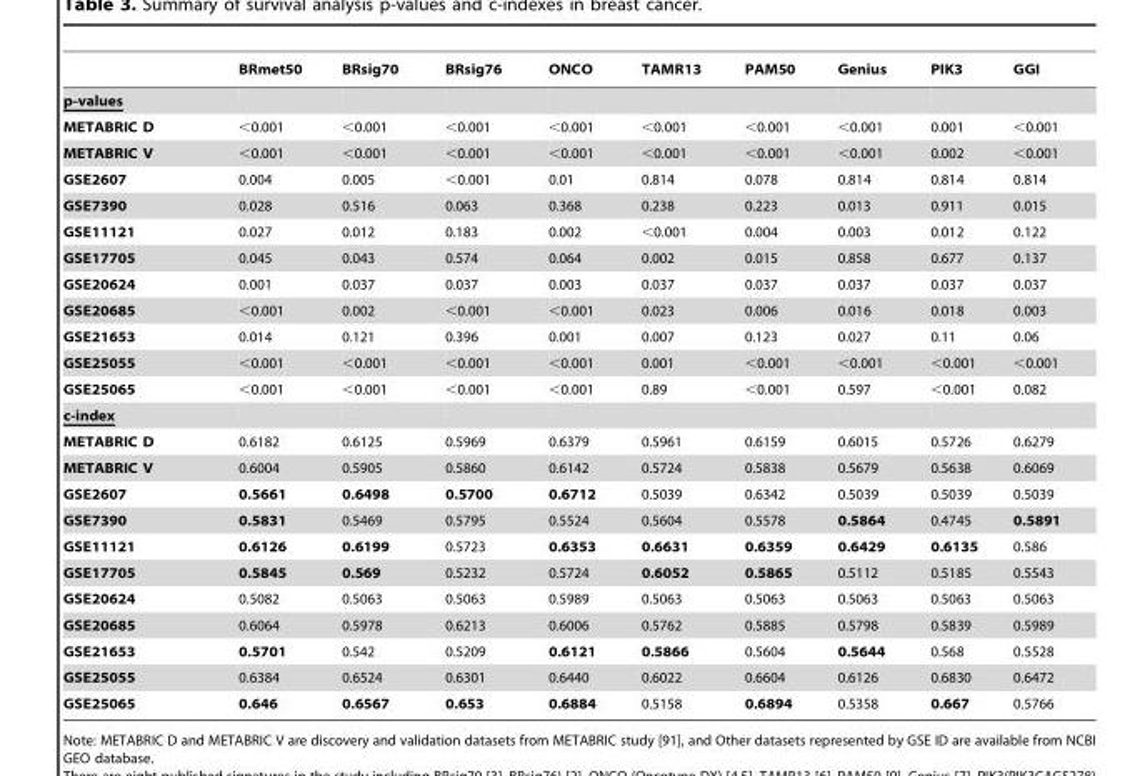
<table><thead><tr><td></td><td>BRmet50</td><td>BRsig70</td><td>BRsig76</td><td>ONCO</td><td>TAMR13</td><td>PAM50</td><td>Genius</td><td>PIK3</td><td>GGI</td></tr></thead><tbody><tr><td colspan="10">p-values</td></tr><tr><td>METABRIC D</td><td>&lt;0.001</td><td>&lt;0.001</td><td>&lt;0.001</td><td>&lt;0.001</td><td>&lt;0.001</td><td>&lt;0.001</td><td>&lt;0.001</td><td>0.001</td><td>&lt;0.001</td></tr><tr><td>METABRIC V</td><td>&lt;0.001</td><td>&lt;0.001</td><td>&lt;0.001</td><td>&lt;0.001</td><td>&lt;0.001</td><td>&lt;0.001</td><td>&lt;0.001</td><td>0.002</td><td>&lt;0.001</td></tr><tr><td>GSE2607</td><td>0.004</td><td>0.005</td><td>&lt;0.001</td><td>0.01</td><td>0.814</td><td>0.078</td><td>0.814</td><td>0.814</td><td>0.814</td></tr><tr><td>GSE7390</td><td>0.028</td><td>0.516</td><td>0.063</td><td>0.368</td><td>0.238</td><td>0.223</td><td>0.013</td><td>0.911</td><td>0.015</td></tr><tr><td>GSE11121</td><td>0.027</td><td>0.012</td><td>0.183</td><td>0.002</td><td>&lt;0.001</td><td>0.004</td><td>0.003</td><td>0.012</td><td>0.122</td></tr><tr><td>GSE17705</td><td>0.045</td><td>0.043</td><td>0.574</td><td>0.064</td><td>0.002</td><td>0.015</td><td>0.858</td><td>0.677</td><td>0.137</td></tr><tr><td>GSE20624</td><td>0.001</td><td>0.037</td><td>0.037</td><td>0.003</td><td>0.037</td><td>0.037</td><td>0.037</td><td>0.037</td><td>0.037</td></tr><tr><td>GSE20685</td><td>&lt;0.001</td><td>0.002</td><td>&lt;0.001</td><td>&lt;0.001</td><td>0.023</td><td>0.006</td><td>0.016</td><td>0.018</td><td>0.003</td></tr><tr><td>GSE21653</td><td>0.014</td><td>0.121</td><td>0.396</td><td>0.001</td><td>0.007</td><td>0.123</td><td>0.027</td><td>0.11</td><td>0.06</td></tr><tr><td>GSE25055</td><td>&lt;0.001</td><td>&lt;0.001</td><td>&lt;0.001</td><td>&lt;0.001</td><td>0.001</td><td>&lt;0.001</td><td>&lt;0.001</td><td>&lt;0.001</td><td>&lt;0.001</td></tr><tr><td>GSE25065</td><td>&lt;0.001</td><td>&lt;0.001</td><td>&lt;0.001</td><td>&lt;0.001</td><td>0.89</td><td>&lt;0.001</td><td>0.597</td><td>&lt;0.001</td><td>0.082</td></tr><tr><td colspan="10">c-index</td></tr><tr><td>METABRIC D</td><td>0.6182</td><td>0.6125</td><td>0.5969</td><td>0.6379</td><td>0.5961</td><td>0.6159</td><td>0.6015</td><td>0.5726</td><td>0.6279</td></tr><tr><td>METABRIC V</td><td>0.6004</td><td>0.5905</td><td>0.5860</td><td>0.6142</td><td>0.5724</td><td>0.5838</td><td>0.5679</td><td>0.5638</td><td>0.6069</td></tr><tr><td>GSE2607</td><td>0.5661</td><td>0.6498</td><td>0.5700</td><td>0.6712</td><td>0.5039</td><td>0.6342</td><td>0.5039</td><td>0.5039</td><td>0.5039</td></tr><tr><td>GSE7390</td><td>0.5831</td><td>0.5469</td><td>0.5795</td><td>0.5524</td><td>0.5604</td><td>0.5578</td><td>0.5864</td><td>0.4745</td><td>0.5891</td></tr><tr><td>GSE11121</td><td>0.6126</td><td>0.6199</td><td>0.5723</td><td>0.6353</td><td>0.6631</td><td>0.6359</td><td>0.6429</td><td>0.6135</td><td>0.586</td></tr><tr><td>GSE17705</td><td>0.5845</td><td>0.569</td><td>0.5232</td><td>0.5724</td><td>0.6052</td><td>0.5865</td><td>0.5112</td><td>0.5185</td><td>0.5543</td></tr><tr><td>GSE20624</td><td>0.5082</td><td>0.5063</td><td>0.5063</td><td>0.5989</td><td>0.5063</td><td>0.5063</td><td>0.5063</td><td>0.5063</td><td>0.5063</td></tr><tr><td>GSE20685</td><td>0.6064</td><td>0.5978</td><td>0.6213</td><td>0.6006</td><td>0.5762</td><td>0.5885</td><td>0.5798</td><td>0.5839</td><td>0.5989</td></tr><tr><td>GSE21653</td><td>0.5701</td><td>0.542</td><td>0.5209</td><td>0.6121</td><td>0.5866</td><td>0.5604</td><td>0.5644</td><td>0.568</td><td>0.5528</td></tr><tr><td>GSE25055</td><td>0.6384</td><td>0.6524</td><td>0.6301</td><td>0.6440</td><td>0.6022</td><td>0.6604</td><td>0.6126</td><td>0.6830</td><td>0.6472</td></tr><tr><td>GSE25065</td><td>0.646</td><td>0.6567</td><td>0.653</td><td>0.6884</td><td>0.5158</td><td>0.6894</td><td>0.5358</td><td>0.667</td><td>0.5766</td></tr></tbody></table>